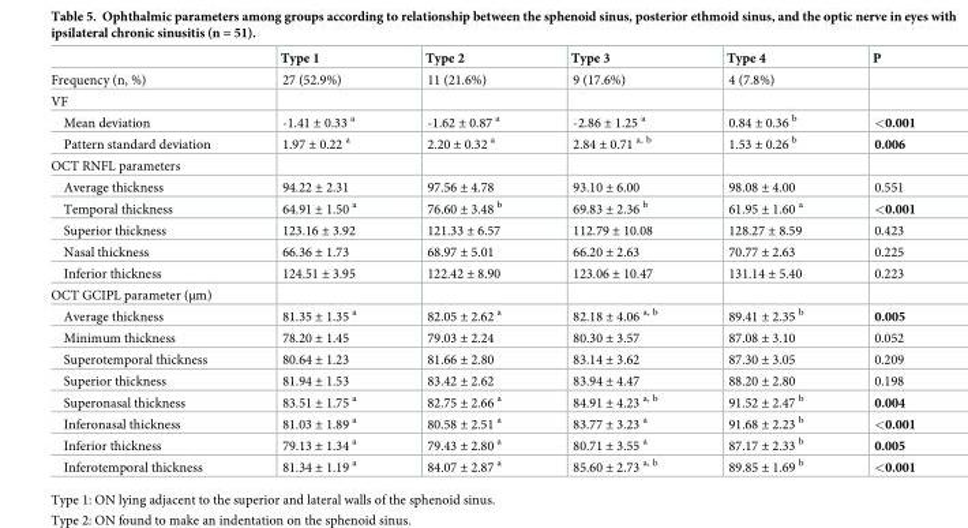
<table><thead><tr><td></td><td>Type 1</td><td>Type 2</td><td>Type 3</td><td>Type 4</td><td>P</td></tr></thead><tbody><tr><td>Frequency (n, %)</td><td>27 (52.9%)</td><td>11 (21.6%)</td><td>9 (17.6%)</td><td>4 (7.8%)</td><td></td></tr><tr><td colspan="6">VF</td></tr><tr><td>Mean deviation</td><td>-1.41 ± 0.33 <sup>a</sup></td><td>-1.62 ± 0.87 <sup>a</sup></td><td>-2.86 ± 1.25 <sup>a</sup></td><td>0.84 ± 0.36 <sup>b</sup></td><td>&lt;0.001</td></tr><tr><td>Pattern standard deviation</td><td>1.97 ± 0.22 <sup>a</sup></td><td>2.20 ± 0.32 <sup>a</sup></td><td>2.84 ± 0.71 <sup>a, b</sup></td><td>1.53 ± 0.26 <sup>b</sup></td><td>0.006</td></tr><tr><td colspan="6">OCT RNFL parameters</td></tr><tr><td>Average thickness</td><td>94.22 ± 2.31</td><td>97.56 ± 4.78</td><td>93.10 ± 6.00</td><td>98.08 ± 4.00</td><td>0.551</td></tr><tr><td>Temporal thickness</td><td>64.91 ± 1.50 <sup>a</sup></td><td>76.60 ± 3.48 <sup>b</sup></td><td>69.83 ± 2.36 <sup>b</sup></td><td>61.95 ± 1.60 <sup>a</sup></td><td>&lt;0.001</td></tr><tr><td>Superior thickness</td><td>123.16 ± 3.92</td><td>121.33 ± 6.57</td><td>112.79 ± 10.08</td><td>128.27 ± 8.59</td><td>0.423</td></tr><tr><td>Nasal thickness</td><td>66.36 ± 1.73</td><td>68.97 ± 5.01</td><td>66.20 ± 2.63</td><td>70.77 ± 2.63</td><td>0.225</td></tr><tr><td>Inferior thickness</td><td>124.51 ± 3.95</td><td>122.42 ± 8.90</td><td>123.06 ± 10.47</td><td>131.14 ± 5.40</td><td>0.223</td></tr><tr><td colspan="6">OCT GCIPL parameter (μm)</td></tr><tr><td>Average thickness</td><td>81.35 ± 1.35 <sup>a</sup></td><td>82.05 ± 2.62 <sup>a</sup></td><td>82.18 ± 4.06 <sup>a, b</sup></td><td>89.41 ± 2.35 <sup>b</sup></td><td>0.005</td></tr><tr><td>Minimum thickness</td><td>78.20 ± 1.45</td><td>79.03 ± 2.24</td><td>80.30 ± 3.57</td><td>87.08 ± 3.10</td><td>0.052</td></tr><tr><td>Superotemporal thickness</td><td>80.64 ± 1.23</td><td>81.66 ± 2.80</td><td>83.14 ± 3.62</td><td>87.30 ± 3.05</td><td>0.209</td></tr><tr><td>Superior thickness</td><td>81.94 ± 1.53</td><td>83.42 ± 2.62</td><td>83.94 ± 4.47</td><td>88.20 ± 2.80</td><td>0.198</td></tr><tr><td>Superonasal thickness</td><td>83.51 ± 1.75 <sup>a</sup></td><td>82.75 ± 2.66 <sup>a</sup></td><td>84.91 ± 4.23 <sup>a, b</sup></td><td>91.52 ± 2.47 <sup>b</sup></td><td>0.004</td></tr><tr><td>Inferonasal thickness</td><td>81.03 ± 1.89 <sup>a</sup></td><td>80.58 ± 2.51 <sup>a</sup></td><td>83.77 ± 3.23 <sup>a</sup></td><td>91.68 ± 2.23 <sup>b</sup></td><td>&lt;0.001</td></tr><tr><td>Inferior thickness</td><td>79.13 ± 1.34 <sup>a</sup></td><td>79.43 ± 2.80 <sup>a</sup></td><td>80.71 ± 3.55 <sup>a</sup></td><td>87.17 ± 2.33 <sup>b</sup></td><td>0.005</td></tr><tr><td>Inferotemporal thickness</td><td>81.34 ± 1.19 <sup>a</sup></td><td>84.07 ± 2.87 <sup>a</sup></td><td>85.60 ± 2.73 <sup>a, b</sup></td><td>89.85 ± 1.69 <sup>b</sup></td><td>&lt;0.001</td></tr></tbody></table>